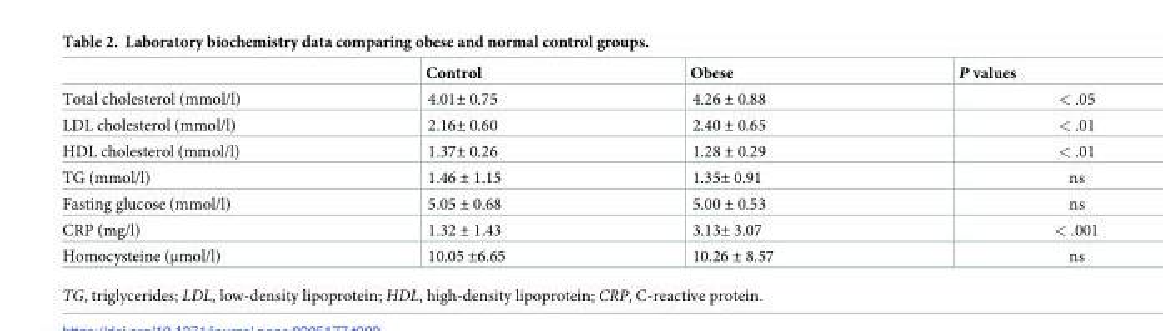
<table><thead><tr><td></td><td>Control</td><td>Obese</td><td>P values</td></tr></thead><tbody><tr><td>Total cholesterol (mmol/l)</td><td>4.01± 0.75</td><td>4.26 ± 0.88</td><td>&lt; .05</td></tr><tr><td>LDL cholesterol (mmol/l)</td><td>2.16± 0.60</td><td>2.40 ± 0.65</td><td>&lt; .01</td></tr><tr><td>HDL cholesterol (mmol/l)</td><td>1.37± 0.26</td><td>1.28 ± 0.29</td><td>&lt; .01</td></tr><tr><td>TG (mmol/l)</td><td>1.46 ± 1.15</td><td>1.35± 0.91</td><td>ns</td></tr><tr><td>Fasting glucose (mmol/l)</td><td>5.05 ± 0.68</td><td>5.00 ± 0.53</td><td>ns</td></tr><tr><td>CRP (mg/l)</td><td>1.32 ± 1.43</td><td>3.13± 3.07</td><td>&lt; .001</td></tr><tr><td>Homocysteine (μmol/l)</td><td>10.05 ±6.65</td><td>10.26 ± 8.57</td><td>ns</td></tr></tbody></table>